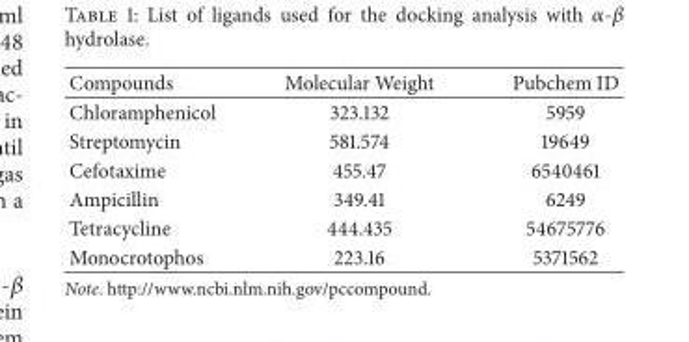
<table><thead><tr><td>Compounds</td><td>Molecular Weight</td><td>Pubchem ID</td></tr></thead><tbody><tr><td>Chloramphenicol</td><td>323.132</td><td>5959</td></tr><tr><td>Streptomycin</td><td>581.574</td><td>19649</td></tr><tr><td>Cefotaxime</td><td>455.47</td><td>6540461</td></tr><tr><td>Ampicillin</td><td>349.41</td><td>6249</td></tr><tr><td>Tetracycline</td><td>444.435</td><td>54675776</td></tr><tr><td>Monocrotophos</td><td>223.16</td><td>5371562</td></tr></tbody></table>